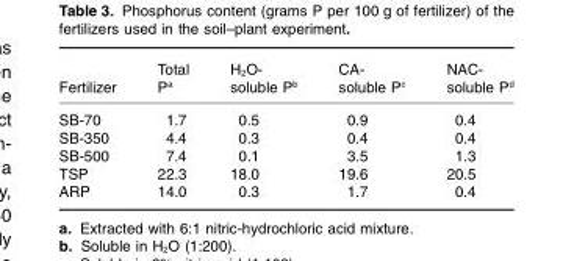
<table><thead><tr><td>Fertilizer</td><td>Total P<sup>a</sup></td><td>H<sub>2</sub>O- soluble P<sup>b</sup></td><td>CA- soluble P<sup>c</sup></td><td>NAC- soluble P<sup>d</sup></td></tr></thead><tbody><tr><td>SB-70</td><td>1.7</td><td>0.5</td><td>0.9</td><td>0.4</td></tr><tr><td>SB-350</td><td>4.4</td><td>0.3</td><td>0.4</td><td>0.4</td></tr><tr><td>SB-500</td><td>7.4</td><td>0.1</td><td>3.5</td><td>1.3</td></tr><tr><td>TSP</td><td>22.3</td><td>18.0</td><td>19.6</td><td>20.5</td></tr><tr><td>ARP</td><td>14.0</td><td>0.3</td><td>1.7</td><td>0.4</td></tr></tbody></table>